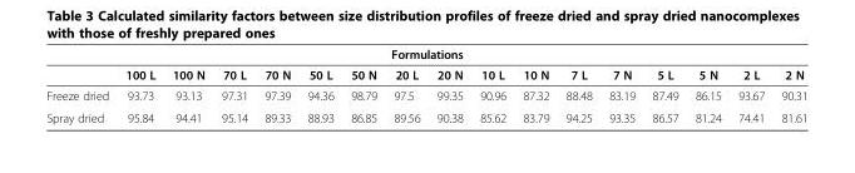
<table><thead><tr><td colspan="17">Formulations</td></tr><tr><td></td><td>100 L</td><td>100 N</td><td>70 L</td><td>70 N</td><td>50 L</td><td>50 N</td><td>20 L</td><td>20 N</td><td>10 L</td><td>10 N</td><td>7 L</td><td>7 N</td><td>5 L</td><td>5 N</td><td>2 L</td><td>2 N</td></tr></thead><tbody><tr><td>Freeze dried</td><td>93.73</td><td>93.13</td><td>97.31</td><td>97.39</td><td>94.36</td><td>98.79</td><td>97.5</td><td>99.35</td><td>90.96</td><td>87.32</td><td>88.48</td><td>83.19</td><td>87.49</td><td>86.15</td><td>93.67</td><td>90.31</td></tr><tr><td>Spray dried</td><td>95.84</td><td>94.41</td><td>95.14</td><td>89.33</td><td>88.93</td><td>86.85</td><td>89.56</td><td>90.38</td><td>85.62</td><td>83.79</td><td>94.25</td><td>93.35</td><td>86.57</td><td>81.24</td><td>74.41</td><td>81.61</td></tr></tbody></table>